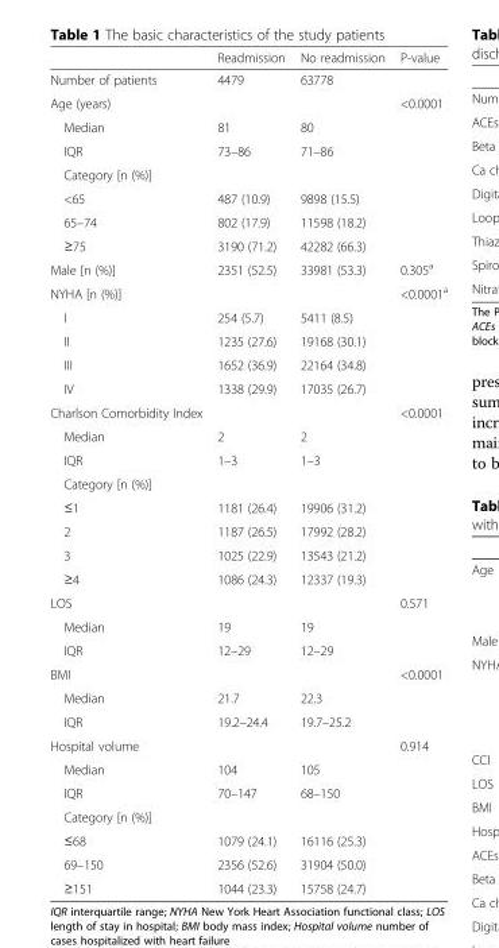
<table><thead><tr><td></td><td>Readmission</td><td>No readmission</td><td>P-value</td></tr></thead><tbody><tr><td>Number of patients</td><td>4479</td><td>63778</td><td></td></tr><tr><td>Age (years)</td><td></td><td></td><td>&lt;0.0001</td></tr><tr><td>Median</td><td>81</td><td>80</td><td></td></tr><tr><td>IQR</td><td>73–86</td><td>71–86</td><td></td></tr><tr><td colspan="4">Category [n (%)]</td></tr><tr><td>&lt;65</td><td>487 (10.9)</td><td>9898 (15.5)</td><td></td></tr><tr><td>65–74</td><td>802 (17.9)</td><td>11598 (18.2)</td><td></td></tr><tr><td>≥75</td><td>3190 (71.2)</td><td>42282 (66.3)</td><td></td></tr><tr><td>Male [n (%)]</td><td>2351 (52.5)</td><td>33981 (53.3)</td><td>0.305<sup>a</sup></td></tr><tr><td>NYHA [n (%)]</td><td></td><td></td><td>&lt;0.0001<sup>a</sup></td></tr><tr><td>I</td><td>254 (5.7)</td><td>5411 (8.5)</td><td></td></tr><tr><td>II</td><td>1235 (27.6)</td><td>19168 (30.1)</td><td></td></tr><tr><td>III</td><td>1652 (36.9)</td><td>22164 (34.8)</td><td></td></tr><tr><td>IV</td><td>1338 (29.9)</td><td>17035 (26.7)</td><td></td></tr><tr><td>Charlson Comorbidity Index</td><td></td><td></td><td>&lt;0.0001</td></tr><tr><td>Median</td><td>2</td><td>2</td><td></td></tr><tr><td>IQR</td><td>1–3</td><td>1–3</td><td></td></tr><tr><td colspan="4">Category [n (%)]</td></tr><tr><td>≤1</td><td>1181 (26.4)</td><td>19906 (31.2)</td><td></td></tr><tr><td>2</td><td>1187 (26.5)</td><td>17992 (28.2)</td><td></td></tr><tr><td>3</td><td>1025 (22.9)</td><td>13543 (21.2)</td><td></td></tr><tr><td>≥4</td><td>1086 (24.3)</td><td>12337 (19.3)</td><td></td></tr><tr><td>LOS</td><td></td><td></td><td>0.571</td></tr><tr><td>Median</td><td>19</td><td>19</td><td></td></tr><tr><td>IQR</td><td>12–29</td><td>12–29</td><td></td></tr><tr><td>BMI</td><td></td><td></td><td>&lt;0.0001</td></tr><tr><td>Median</td><td>21.7</td><td>22.3</td><td></td></tr><tr><td>IQR</td><td>19.2–24.4</td><td>19.7–25.2</td><td></td></tr><tr><td>Hospital volume</td><td></td><td></td><td>0.914</td></tr><tr><td>Median</td><td>104</td><td>105</td><td></td></tr><tr><td>IQR</td><td>70–147</td><td>68–150</td><td></td></tr><tr><td colspan="4">Category [n (%)]</td></tr><tr><td>≤68</td><td>1079 (24.1)</td><td>16116 (25.3)</td><td></td></tr><tr><td>69–150</td><td>2356 (52.6)</td><td>31904 (50.0)</td><td></td></tr><tr><td>≥151</td><td>1044 (23.3)</td><td>15758 (24.7)</td><td></td></tr></tbody></table>